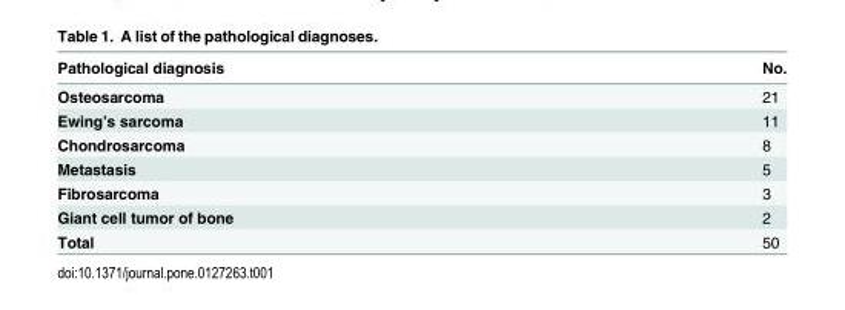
<table><thead><tr><td>Pathological diagnosis</td><td>No.</td></tr></thead><tbody><tr><td>Osteosarcoma</td><td>21</td></tr><tr><td>Ewing’s sarcoma</td><td>11</td></tr><tr><td>Chondrosarcoma</td><td>8</td></tr><tr><td>Metastasis</td><td>5</td></tr><tr><td>Fibrosarcoma</td><td>3</td></tr><tr><td>Giant cell tumor of bone</td><td>2</td></tr><tr><td>Total</td><td>50</td></tr></tbody></table>